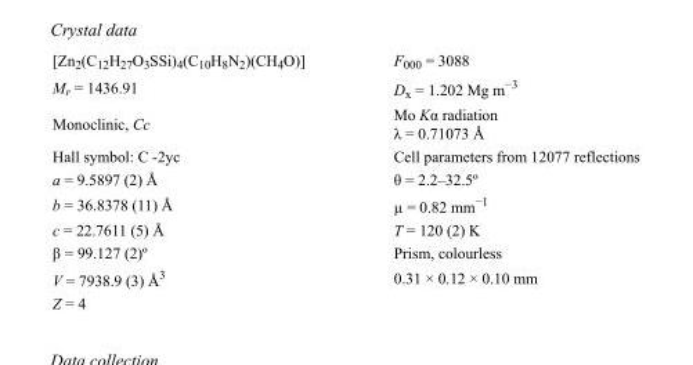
<table><tbody><tr><td>[Zn<sub>2</sub>(C<sub>12</sub>H<sub>27</sub>O<sub>3</sub>SSi)<sub>4</sub>(C<sub>10</sub>H<sub>8</sub>N<sub>2</sub>)(CH<sub>4</sub>O)]</td><td>F<sub>000</sub> = 3088</td></tr><tr><td>M<sub>r</sub> = 1436.91</td><td>D<sub>x</sub> = 1.202 Mg m<sup>−3</sup></td></tr><tr><td>Monoclinic, Cc</td><td>Mo Kα radiation λ = 0.71073 Å</td></tr><tr><td>Hall symbol: C -2yc</td><td>Cell parameters from 12077 reflections</td></tr><tr><td>a = 9.5897 (2) Å</td><td>θ = 2.2–32.5º</td></tr><tr><td>b = 36.8378 (11) Å</td><td>µ = 0.82 mm<sup>−1</sup></td></tr><tr><td>c = 22.7611 (5) Å</td><td>T = 120 (2) K</td></tr><tr><td>β = 99.127 (2)º</td><td>Prism, colourless</td></tr><tr><td>V = 7938.9 (3) Å<sup>3</sup></td><td>0.31 × 0.12 × 0.10 mm</td></tr><tr><td>Z = 4</td><td></td></tr></tbody></table>